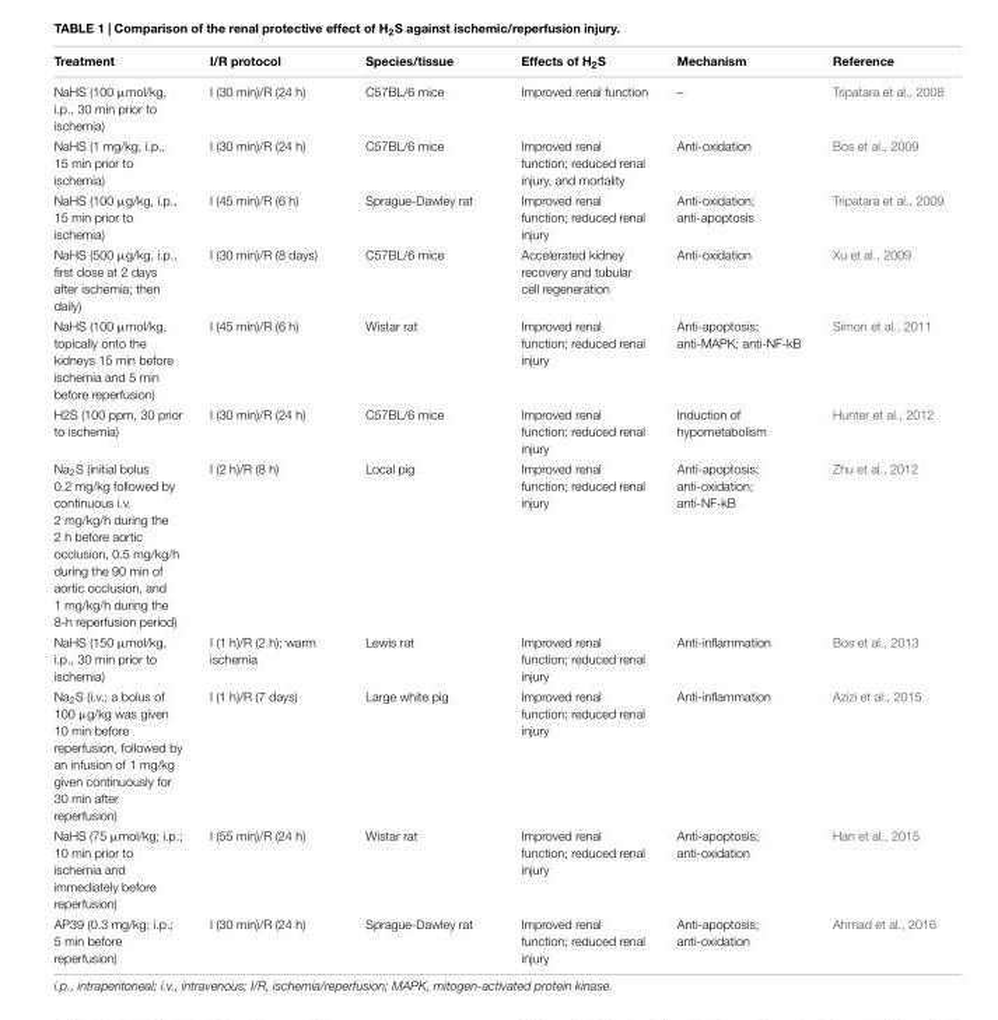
<table><thead><tr><td>Treatment</td><td>I/R protocol</td><td>Species/tissue</td><td>Effects of H<sub>2</sub>S</td><td>Mechanism</td><td>Reference</td></tr></thead><tbody><tr><td>NaHS (100 µmol/kg, i.p., 30 min prior to ischemia)</td><td>I (30 min)/R (24 h)</td><td>C57BL/6 mice</td><td>Improved renal function</td><td>–</td><td>Tripatara et al., 2008</td></tr><tr><td>NaHS (1 mg/kg, i.p., 15 min prior to ischemia)</td><td>I (30 min)/R (24 h)</td><td>C57BL/6 mice</td><td>Improved renal function; reduced renal injury, and mortality</td><td>Anti-oxidation</td><td>Bos et al., 2009</td></tr><tr><td>NaHS (100 µg/kg, i.p., 15 min prior to ischemia)</td><td>I (45 min)/R (6 h)</td><td>Sprague-Dawley rat</td><td>Improved renal function; reduced renal injury</td><td>Anti-oxidation; anti-apoptosis</td><td>Tripatara et al., 2009</td></tr><tr><td>NaHS (500 µg/kg, i.p., first dose at 2 days after ischemia; then daily)</td><td>I (30 min)/R (8 days)</td><td>C57BL/6 mice</td><td>Accelerated kidney recovery and tubular cell regeneration</td><td>Anti-oxidation</td><td>Xu et al., 2009</td></tr><tr><td>NaHS (100 µmol/kg, topically onto the kidneys 15 min before ischemia and 5 min before reperfusion)</td><td>I (45 min)/R (6 h)</td><td>Wistar rat</td><td>Improved renal function; reduced renal injury</td><td>Anti-apoptosis; anti-MAPK; anti-NF-kB</td><td>Simon et al., 2011</td></tr><tr><td>H2S (100 ppm, 30 prior to ischemia)</td><td>I (30 min)/R (24 h)</td><td>C57BL/6 mice</td><td>Improved renal function; reduced renal injury</td><td>Induction of hypometabolism</td><td>Hunter et al., 2012</td></tr><tr><td>Na<sub>2</sub>S (initial bolus 0.2 mg/kg followed by continuous i.v. 2 mg/kg/h during the 2 h before aortic occlusion, 0.5 mg/kg/h during the 90 min of aortic occlusion, and 1 mg/kg/h during the 8-h reperfusion period)</td><td>I (2 h)/R (8 h)</td><td>Local pig</td><td>Improved renal function; reduced renal injury</td><td>Anti-apoptosis; anti-oxidation; anti-NF-kB</td><td>Zhu et al., 2012</td></tr><tr><td>NaHS (150 µmol/kg, i.p., 30 min prior to ischemia)</td><td>I (1 h)/R (2 h); warm ischemia</td><td>Lewis rat</td><td>Improved renal function; reduced renal injury</td><td>Anti-inflammation</td><td>Bos et al., 2013</td></tr><tr><td>Na<sub>2</sub>S (i.v.; a bolus of 100 µg/kg was given 10 min before reperfusion, followed by an infusion of 1 mg/kg given continuously for 30 min after reperfusion)</td><td>I (1 h)/R (7 days)</td><td>Large white pig</td><td>Improved renal function; reduced renal injury</td><td>Anti-inflammation</td><td>Azizi et al., 2015</td></tr><tr><td>NaHS (75 µmol/kg; i.p.; 10 min prior to ischemia and immediately before reperfusion)</td><td>I (55 min)/R (24 h)</td><td>Wistar rat</td><td>Improved renal function; reduced renal injury</td><td>Anti-apoptosis; anti-oxidation</td><td>Han et al., 2015</td></tr><tr><td>AP39 (0.3 mg/kg; i.p.; 5 min before reperfusion)</td><td>I (30 min)/R (24 h)</td><td>Sprague-Dawley rat</td><td>Improved renal function; reduced renal injury</td><td>Anti-apoptosis; anti-oxidation</td><td>Ahmad et al., 2016</td></tr></tbody></table>